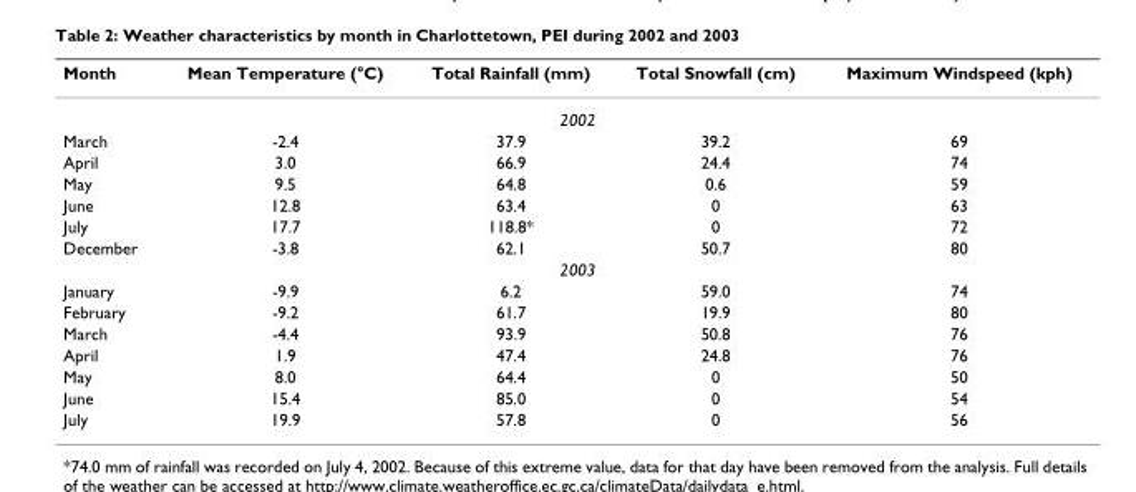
<table><thead><tr><td>Month</td><td>Mean Temperature (°C)</td><td>Total Rainfall (mm)</td><td>Total Snowfall (cm)</td><td>Maximum Windspeed (kph)</td></tr></thead><tbody><tr><td colspan="5">2002</td></tr><tr><td>March</td><td>-2.4</td><td>37.9</td><td>39.2</td><td>69</td></tr><tr><td>April</td><td>3.0</td><td>66.9</td><td>24.4</td><td>74</td></tr><tr><td>May</td><td>9.5</td><td>64.8</td><td>0.6</td><td>59</td></tr><tr><td>June</td><td>12.8</td><td>63.4</td><td>0</td><td>63</td></tr><tr><td>July</td><td>17.7</td><td>118.8*</td><td>0</td><td>72</td></tr><tr><td>December</td><td>-3.8</td><td>62.1</td><td>50.7</td><td>80</td></tr><tr><td colspan="5">2003</td></tr><tr><td>January</td><td>-9.9</td><td>6.2</td><td>59.0</td><td>74</td></tr><tr><td>February</td><td>-9.2</td><td>61.7</td><td>19.9</td><td>80</td></tr><tr><td>March</td><td>-4.4</td><td>93.9</td><td>50.8</td><td>76</td></tr><tr><td>April</td><td>1.9</td><td>47.4</td><td>24.8</td><td>76</td></tr><tr><td>May</td><td>8.0</td><td>64.4</td><td>0</td><td>50</td></tr><tr><td>June</td><td>15.4</td><td>85.0</td><td>0</td><td>54</td></tr><tr><td>July</td><td>19.9</td><td>57.8</td><td>0</td><td>56</td></tr></tbody></table>